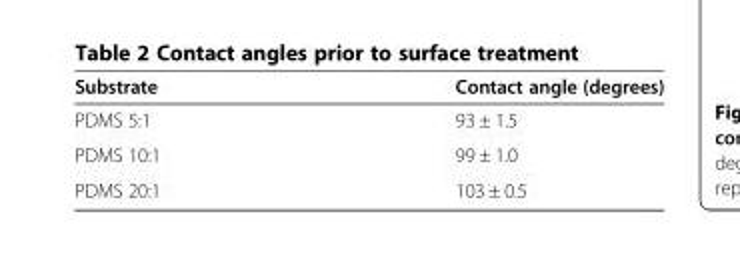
<table><thead><tr><td>Substrate</td><td>Contact angle (degrees)</td></tr></thead><tbody><tr><td>PDMS 5:1</td><td>93 ± 1.5</td></tr><tr><td>PDMS 10:1</td><td>99 ± 1.0</td></tr><tr><td>PDMS 20:1</td><td>103 ± 0.5</td></tr></tbody></table>